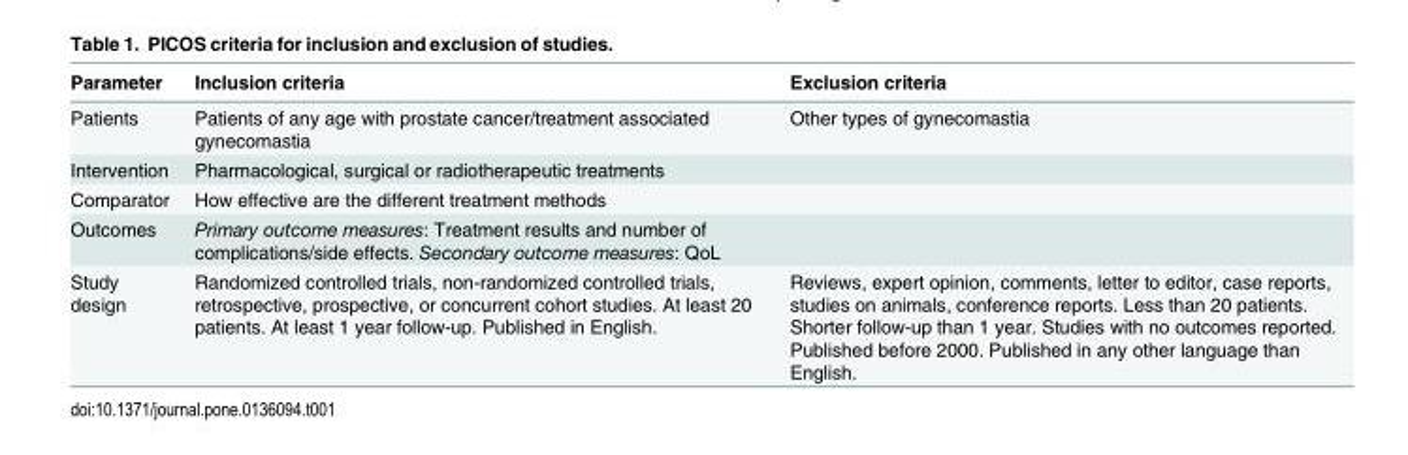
<table><thead><tr><td>Parameter</td><td>Inclusion criteria</td><td>Exclusion criteria</td></tr></thead><tbody><tr><td>Patients</td><td>Patients of any age with prostate cancer/treatment associated gynecomastia</td><td>Other types of gynecomastia</td></tr><tr><td>Intervention</td><td>Pharmacological, surgical or radiotherapeutic treatments</td><td></td></tr><tr><td>Comparator</td><td>How effective are the different treatment methods</td><td></td></tr><tr><td>Outcomes</td><td>Primary outcome measures: Treatment results and number of complications/side effects. Secondary outcome measures: QoL</td><td></td></tr><tr><td>Study design</td><td>Randomized controlled trials, non-randomized controlled trials, retrospective, prospective, or concurrent cohort studies. At least 20 patients. At least 1 year follow-up. Published in English.</td><td>Reviews, expert opinion, comments, letter to editor, case reports, studies on animals, conference reports. Less than 20 patients. Shorter follow-up than 1 year. Studies with no outcomes reported. Published before 2000. Published in any other language than English.</td></tr></tbody></table>